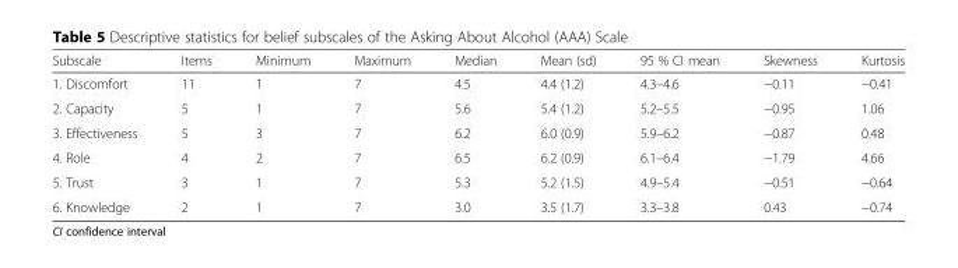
<table><thead><tr><td>Subscale</td><td>Items</td><td>Minimum</td><td>Maximum</td><td>Median</td><td>Mean (sd)</td><td>95 % CI mean</td><td>Skewness</td><td>Kurtosis</td></tr></thead><tbody><tr><td>1. Discomfort</td><td>11</td><td>1</td><td>7</td><td>4.5</td><td>4.4 (1.2)</td><td>4.3–4.6</td><td>−0.11</td><td>−0.41</td></tr><tr><td>2. Capacity</td><td>5</td><td>1</td><td>7</td><td>5.6</td><td>5.4 (1.2)</td><td>5.2–5.5</td><td>−0.95</td><td>1.06</td></tr><tr><td>3. Effectiveness</td><td>5</td><td>3</td><td>7</td><td>6.2</td><td>6.0 (0.9)</td><td>5.9–6.2</td><td>−0.87</td><td>0.48</td></tr><tr><td>4. Role</td><td>4</td><td>2</td><td>7</td><td>6.5</td><td>6.2 (0.9)</td><td>6.1–6.4</td><td>−1.79</td><td>4.66</td></tr><tr><td>5. Trust</td><td>3</td><td>1</td><td>7</td><td>5.3</td><td>5.2 (1.5)</td><td>4.9–5.4</td><td>−0.51</td><td>−0.64</td></tr><tr><td>6. Knowledge</td><td>2</td><td>1</td><td>7</td><td>3.0</td><td>3.5 (1.7)</td><td>3.3–3.8</td><td>0.43</td><td>−0.74</td></tr></tbody></table>